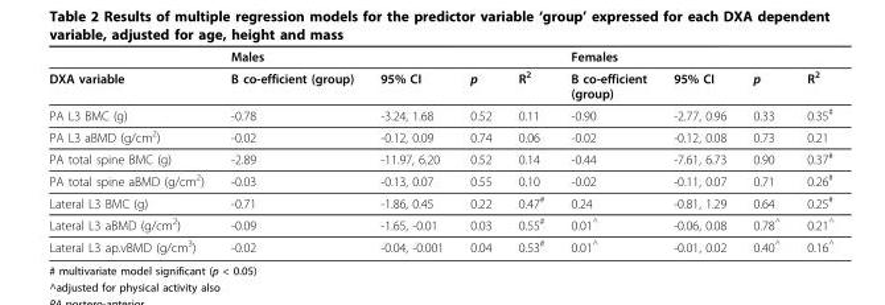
<table><thead><tr><td rowspan="2">DXA variable</td><td colspan="4">Males</td><td colspan="4">Females</td></tr><tr><td>B co-efficient (group)</td><td>95% CI</td><td>p</td><td>R<sup>2</sup></td><td>B co-efficient (group)</td><td>95% CI</td><td>p</td><td>R<sup>2</sup></td></tr></thead><tbody><tr><td>PA L3 BMC (g)</td><td>-0.78</td><td>-3.24, 1.68</td><td>0.52</td><td>0.11</td><td>-0.90</td><td>-2.77, 0.96</td><td>0.33</td><td>0.35<sup>#</sup></td></tr><tr><td>PA L3 aBMD (g/cm<sup>2</sup>)</td><td>-0.02</td><td>-0.12, 0.09</td><td>0.74</td><td>0.06</td><td>-0.02</td><td>-0.12, 0.08</td><td>0.73</td><td>0.21</td></tr><tr><td>PA total spine BMC (g)</td><td>-2.89</td><td>-11.97, 6.20</td><td>0.52</td><td>0.14</td><td>-0.44</td><td>-7.61, 6.73</td><td>0.90</td><td>0.37<sup>#</sup></td></tr><tr><td>PA total spine aBMD (g/cm<sup>2</sup>)</td><td>-0.03</td><td>-0.13, 0.07</td><td>0.55</td><td>0.10</td><td>-0.02</td><td>-0.11, 0.07</td><td>0.71</td><td>0.26<sup>#</sup></td></tr><tr><td>Lateral L3 BMC (g)</td><td>-0.71</td><td>-1.86, 0.45</td><td>0.22</td><td>0.47<sup>#</sup></td><td>0.24</td><td>-0.81, 1.29</td><td>0.64</td><td>0.25<sup>#</sup></td></tr><tr><td>Lateral L3 aBMD (g/cm<sup>2</sup>)</td><td>-0.09</td><td>-1.65, -0.01</td><td>0.03</td><td>0.55<sup>#</sup></td><td>0.01<sup>^</sup></td><td>-0.06, 0.08</td><td>0.78<sup>^</sup></td><td>0.21<sup>^</sup></td></tr><tr><td>Lateral L3 ap.vBMD (g/cm<sup>3</sup>)</td><td>-0.02</td><td>-0.04, -0.001</td><td>0.04</td><td>0.53<sup>#</sup></td><td>0.01<sup>^</sup></td><td>-0.01, 0.02</td><td>0.40<sup>^</sup></td><td>0.16<sup>^</sup></td></tr></tbody></table>